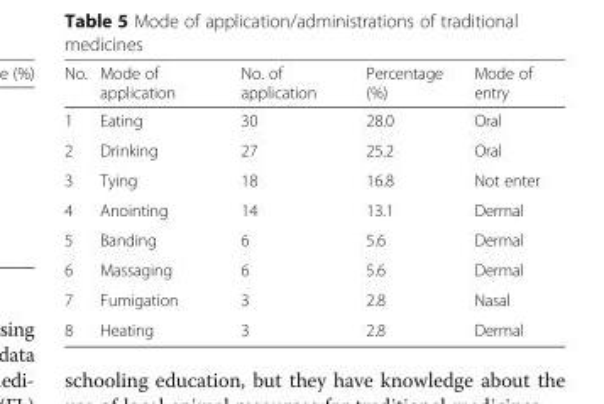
<table><thead><tr><td>No.</td><td>Mode of application</td><td>No. of application</td><td>Percentage (%)</td><td>Mode of entry</td></tr></thead><tbody><tr><td>1</td><td>Eating</td><td>30</td><td>28.0</td><td>Oral</td></tr><tr><td>2</td><td>Drinking</td><td>27</td><td>25.2</td><td>Oral</td></tr><tr><td>3</td><td>Tying</td><td>18</td><td>16.8</td><td>Not enter</td></tr><tr><td>4</td><td>Anointing</td><td>14</td><td>13.1</td><td>Dermal</td></tr><tr><td>5</td><td>Banding</td><td>6</td><td>5.6</td><td>Dermal</td></tr><tr><td>6</td><td>Massaging</td><td>6</td><td>5.6</td><td>Dermal</td></tr><tr><td>7</td><td>Fumigation</td><td>3</td><td>2.8</td><td>Nasal</td></tr><tr><td>8</td><td>Heating</td><td>3</td><td>2.8</td><td>Dermal</td></tr></tbody></table>